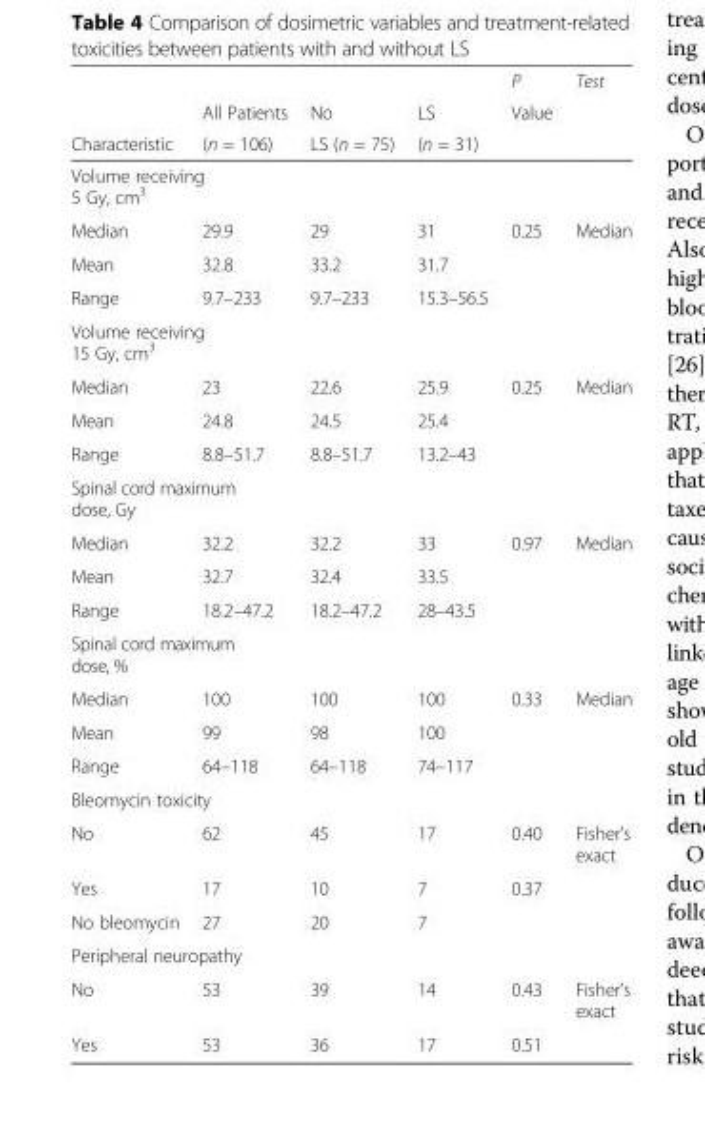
<table><thead><tr><td rowspan="3">Characteristic</td><td rowspan="3">All Patients (n = 106)</td><td rowspan="3">No LS (n = 75)</td><td rowspan="3">LS (n = 31)</td><td rowspan="3">P Value</td><td rowspan="3">Test</td></tr><tr></tr><tr></tr></thead><tbody><tr><td colspan="6">Volume receiving 5 Gy, cm<sup>3</sup></td></tr><tr><td>Median</td><td>29.9</td><td>29</td><td>31</td><td>0.25</td><td>Median</td></tr><tr><td>Mean</td><td>32.8</td><td>33.2</td><td>31.7</td><td></td><td></td></tr><tr><td>Range</td><td>9.7–233</td><td>9.7–233</td><td>15.3–56.5</td><td></td><td></td></tr><tr><td colspan="6">Volume receiving 15 Gy, cm<sup>3</sup></td></tr><tr><td>Median</td><td>23</td><td>22.6</td><td>25.9</td><td>0.25</td><td>Median</td></tr><tr><td>Mean</td><td>24.8</td><td>24.5</td><td>25.4</td><td></td><td></td></tr><tr><td>Range</td><td>8.8–51.7</td><td>8.8–51.7</td><td>13.2–43</td><td></td><td></td></tr><tr><td colspan="6">Spinal cord maximum dose, Gy</td></tr><tr><td>Median</td><td>32.2</td><td>32.2</td><td>33</td><td>0.97</td><td>Median</td></tr><tr><td>Mean</td><td>32.7</td><td>32.4</td><td>33.5</td><td></td><td></td></tr><tr><td>Range</td><td>18.2–47.2</td><td>18.2–47.2</td><td>28–43.5</td><td></td><td></td></tr><tr><td colspan="6">Spinal cord maximum dose, %</td></tr><tr><td>Median</td><td>100</td><td>100</td><td>100</td><td>0.33</td><td>Median</td></tr><tr><td>Mean</td><td>99</td><td>98</td><td>100</td><td></td><td></td></tr><tr><td>Range</td><td>64–118</td><td>64–118</td><td>74–117</td><td></td><td></td></tr><tr><td colspan="6">Bleomycin toxicity</td></tr><tr><td>No</td><td>62</td><td>45</td><td>17</td><td>0.40</td><td>Fisher’s exact</td></tr><tr><td>Yes</td><td>17</td><td>10</td><td>7</td><td>0.37</td><td></td></tr><tr><td>No bleomycin</td><td>27</td><td>20</td><td>7</td><td></td><td></td></tr><tr><td colspan="6">Peripheral neuropathy</td></tr><tr><td>No</td><td>53</td><td>39</td><td>14</td><td>0.43</td><td>Fisher’s exact</td></tr><tr><td>Yes</td><td>53</td><td>36</td><td>17</td><td>0.51</td><td></td></tr></tbody></table>